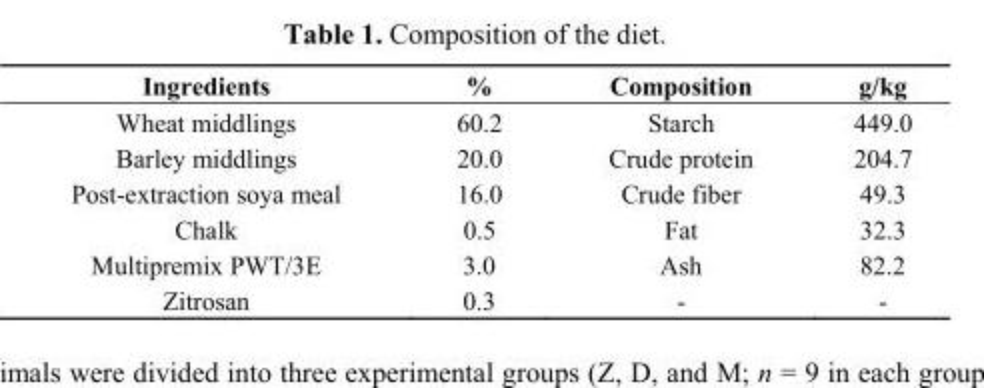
<table><thead><tr><td>Ingredients</td><td>%</td><td>Composition</td><td>g/kg</td></tr></thead><tbody><tr><td>Wheat middlings</td><td>60.2</td><td>Starch</td><td>449.0</td></tr><tr><td>Barley middlings</td><td>20.0</td><td>Crude protein</td><td>204.7</td></tr><tr><td>Post-extraction soya meal</td><td>16.0</td><td>Crude fiber</td><td>49.3</td></tr><tr><td>Chalk</td><td>0.5</td><td>Fat</td><td>32.3</td></tr><tr><td>Multipremix PWT/3E</td><td>3.0</td><td>Ash</td><td>82.2</td></tr><tr><td>Zitrosan</td><td>0.3</td><td>-</td><td>-</td></tr></tbody></table>